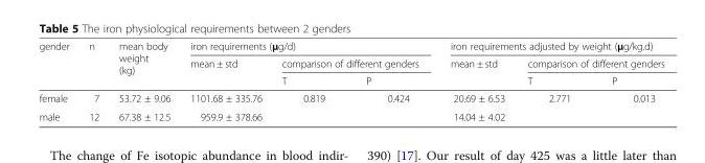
<table><thead><tr><td rowspan="3">gender</td><td rowspan="3">n</td><td rowspan="3">mean body weight (kg)</td><td colspan="3">iron requirements (μg/d)</td><td colspan="3">iron requirements adjusted by weight (μg/kg.d)</td></tr><tr><td rowspan="2">mean ± std</td><td colspan="2">comparison of different genders</td><td rowspan="2">mean ± std</td><td colspan="2">comparison of different genders</td></tr><tr><td>T</td><td>P</td><td>T</td><td>P</td></tr></thead><tbody><tr><td>female</td><td>7</td><td>53.72 ± 9.06</td><td>1101.68 ± 335.76</td><td rowspan="2">0.819</td><td rowspan="2">0.424</td><td>20.69 ± 6.53</td><td rowspan="2">2.771</td><td rowspan="2">0.013</td></tr><tr><td>male</td><td>12</td><td>67.38 ± 12.5</td><td>959.9 ± 378.66</td><td>14.04 ± 4.02</td></tr></tbody></table>